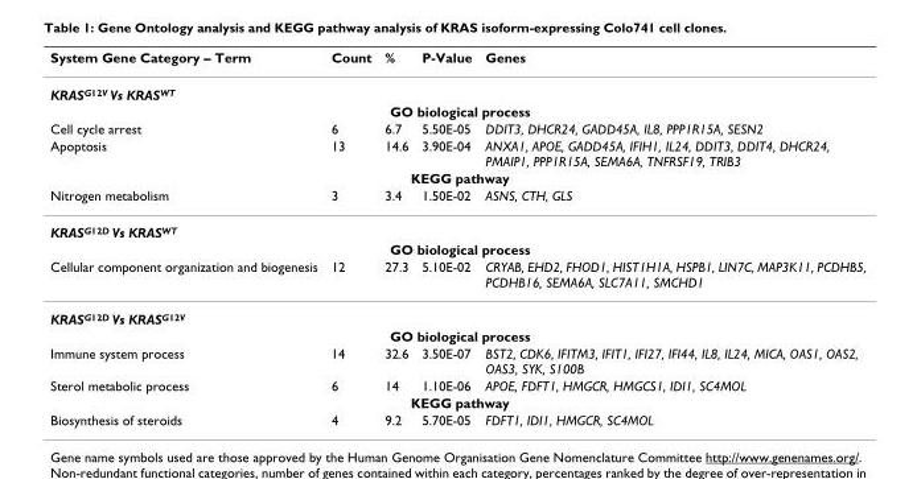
<table><thead><tr><td>System Gene Category – Term</td><td>Count</td><td>%</td><td>P-Value</td><td>Genes</td></tr></thead><tbody><tr><td colspan="5">KRAS<sup>G12V</sup> Vs KRAS<sup>WT</sup></td></tr><tr><td colspan="5">GO biological process</td></tr><tr><td>Cell cycle arrest</td><td>6</td><td>6.7</td><td>5.50E-05</td><td>DDIT3, DHCR24, GADD45A, IL8, PPP1R15A, SESN2</td></tr><tr><td>Apoptosis</td><td>13</td><td>14.6</td><td>3.90E-04</td><td>ANXA1, APOE, GADD45A, IFIH1, IL24, DDIT3, DDIT4, DHCR24, PMAIP1, PPP1R15A, SEMA6A, TNFRSF19, TRIB3</td></tr><tr><td colspan="5">KEGG pathway</td></tr><tr><td>Nitrogen metabolism</td><td>3</td><td>3.4</td><td>1.50E-02</td><td>ASNS, CTH, GLS</td></tr><tr><td colspan="5">KRAS<sup>G12D</sup> Vs KRAS<sup>WT</sup></td></tr><tr><td colspan="5">GO biological process</td></tr><tr><td>Cellular component organization and biogenesis</td><td>12</td><td>27.3</td><td>5.10E-02</td><td>CRYAB, EHD2, FHOD1, HIST1H1A, HSPB1, LIN7C, MAP3K11, PCDHB5, PCDHB16, SEMA6A, SLC7A11, SMCHD1</td></tr><tr><td colspan="5">KRAS<sup>G12D</sup> Vs KRAS<sup>G12V</sup></td></tr><tr><td colspan="5">GO biological process</td></tr><tr><td>Immune system process</td><td>14</td><td>32.6</td><td>3.50E-07</td><td>BST2, CDK6, IFITM3, IFIT1, IFI27, IFI44, IL8, IL24, MICA, OAS1, OAS2, OAS3, SYK, S100B</td></tr><tr><td>Sterol metabolic process</td><td>6</td><td>14</td><td>1.10E-06</td><td>APOE, FDFT1, HMGCR, HMGCS1, IDI1, SC4MOL</td></tr><tr><td colspan="5">KEGG pathway</td></tr><tr><td>Biosynthesis of steroids</td><td>4</td><td>9.2</td><td>5.70E-05</td><td>FDFT1, IDI1, HMGCR, SC4MOL</td></tr></tbody></table>